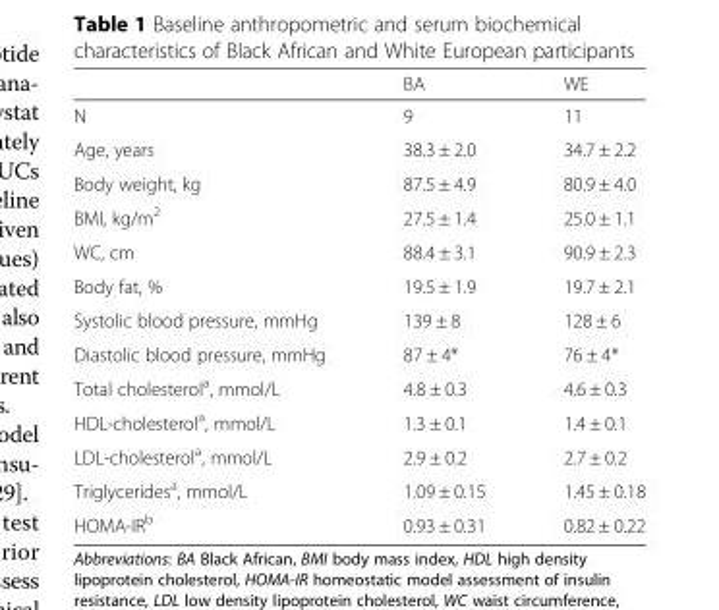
<table><thead><tr><td></td><td>BA</td><td>WE</td></tr></thead><tbody><tr><td>N</td><td>9</td><td>11</td></tr><tr><td>Age, years</td><td>38.3 ± 2.0</td><td>34.7 ± 2.2</td></tr><tr><td>Body weight, kg</td><td>87.5 ± 4.9</td><td>80.9 ± 4.0</td></tr><tr><td>BMI, kg/m<sup>2</sup></td><td>27.5 ± 1.4</td><td>25.0 ± 1.1</td></tr><tr><td>WC, cm</td><td>88.4 ± 3.1</td><td>90.9 ± 2.3</td></tr><tr><td>Body fat, %</td><td>19.5 ± 1.9</td><td>19.7 ± 2.1</td></tr><tr><td>Systolic blood pressure, mmHg</td><td>139 ± 8</td><td>128 ± 6</td></tr><tr><td>Diastolic blood pressure, mmHg</td><td>87 ± 4*</td><td>76 ± 4*</td></tr><tr><td>Total cholesterol<sup>a</sup>, mmol/L</td><td>4.8 ± 0.3</td><td>4.6 ± 0.3</td></tr><tr><td>HDL-cholesterol<sup>a</sup>, mmol/L</td><td>1.3 ± 0.1</td><td>1.4 ± 0.1</td></tr><tr><td>LDL-cholesterol<sup>a</sup>, mmol/L</td><td>2.9 ± 0.2</td><td>2.7 ± 0.2</td></tr><tr><td>Triglycerides<sup>a</sup>, mmol/L</td><td>1.09 ± 0.15</td><td>1.45 ± 0.18</td></tr><tr><td>HOMA-IR<sup>b</sup></td><td>0.93 ± 0.31</td><td>0.82 ± 0.22</td></tr></tbody></table>